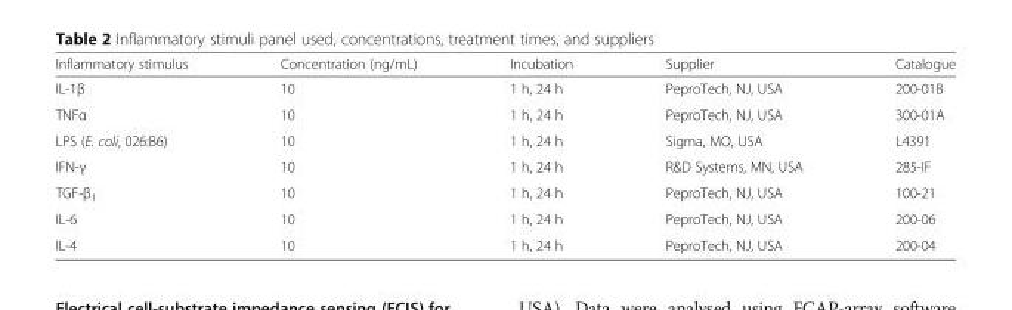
<table><thead><tr><td>Inflammatory stimulus</td><td>Concentration (ng/mL)</td><td>Incubation</td><td>Supplier</td><td>Catalogue</td></tr></thead><tbody><tr><td>IL-1β</td><td>10</td><td>1 h, 24 h</td><td>PeproTech, NJ, USA</td><td>200-01B</td></tr><tr><td>TNFα</td><td>10</td><td>1 h, 24 h</td><td>PeproTech, NJ, USA</td><td>300-01A</td></tr><tr><td>LPS (E. coli, 026:B6)</td><td>10</td><td>1 h, 24 h</td><td>Sigma, MO, USA</td><td>L4391</td></tr><tr><td>IFN-γ</td><td>10</td><td>1 h, 24 h</td><td>R&amp;D Systems, MN, USA</td><td>285-IF</td></tr><tr><td>TGF-β<sub>1</sub></td><td>10</td><td>1 h, 24 h</td><td>PeproTech, NJ, USA</td><td>100-21</td></tr><tr><td>IL-6</td><td>10</td><td>1 h, 24 h</td><td>PeproTech, NJ, USA</td><td>200-06</td></tr><tr><td>IL-4</td><td>10</td><td>1 h, 24 h</td><td>PeproTech, NJ, USA</td><td>200-04</td></tr></tbody></table>